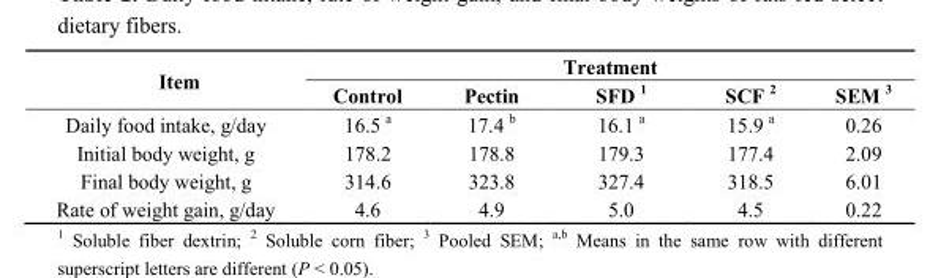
<table><thead><tr><td rowspan="2">Item</td><td colspan="5">Treatment</td></tr><tr><td>Control</td><td>Pectin</td><td>SFD <sup>1</sup></td><td>SCF <sup>2</sup></td><td>SEM <sup>3</sup></td></tr></thead><tbody><tr><td>Daily food intake, g/day</td><td>16.5 <sup>a</sup></td><td>17.4 <sup>b</sup></td><td>16.1 <sup>a</sup></td><td>15.9 <sup>a</sup></td><td>0.26</td></tr><tr><td>Initial body weight, g</td><td>178.2</td><td>178.8</td><td>179.3</td><td>177.4</td><td>2.09</td></tr><tr><td>Final body weight, g</td><td>314.6</td><td>323.8</td><td>327.4</td><td>318.5</td><td>6.01</td></tr><tr><td>Rate of weight gain, g/day</td><td>4.6</td><td>4.9</td><td>5.0</td><td>4.5</td><td>0.22</td></tr></tbody></table>